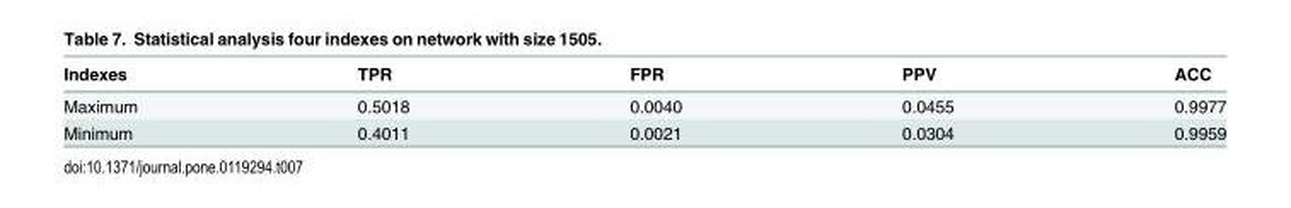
<table><thead><tr><td>Indexes</td><td>TPR</td><td>FPR</td><td>PPV</td><td>ACC</td></tr></thead><tbody><tr><td>Maximum</td><td>0.5018</td><td>0.0040</td><td>0.0455</td><td>0.9977</td></tr><tr><td>Minimum</td><td>0.4011</td><td>0.0021</td><td>0.0304</td><td>0.9959</td></tr></tbody></table>